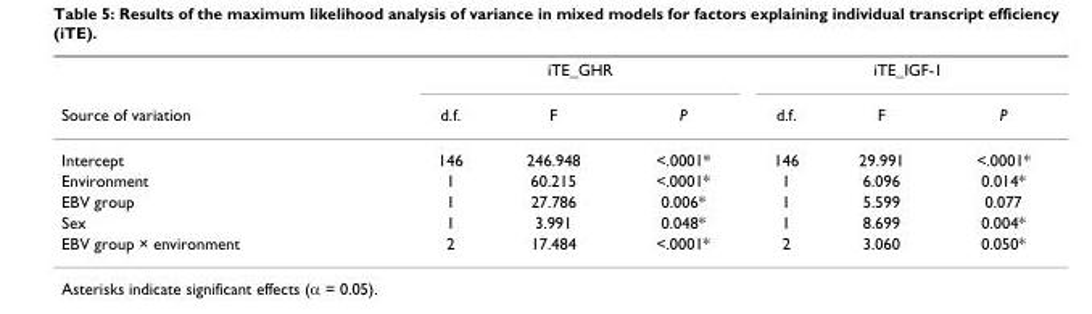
<table><thead><tr><td rowspan="2">Source of variation</td><td colspan="3">iTE_GHR</td><td colspan="3">iTE_IGF-1</td></tr><tr><td>d.f.</td><td>F</td><td>P</td><td>d.f.</td><td>F</td><td>P</td></tr></thead><tbody><tr><td>Intercept</td><td>146</td><td>246.948</td><td>&lt;.0001*</td><td>146</td><td>29.991</td><td>&lt;.0001*</td></tr><tr><td>Environment</td><td>1</td><td>60.215</td><td>&lt;.0001*</td><td>1</td><td>6.096</td><td>0.014*</td></tr><tr><td>EBV group</td><td>1</td><td>27.786</td><td>0.006*</td><td>1</td><td>5.599</td><td>0.077</td></tr><tr><td>Sex</td><td>1</td><td>3.991</td><td>0.048*</td><td>1</td><td>8.699</td><td>0.004*</td></tr><tr><td>EBV group × environment</td><td>2</td><td>17.484</td><td>&lt;.0001*</td><td>2</td><td>3.060</td><td>0.050*</td></tr></tbody></table>